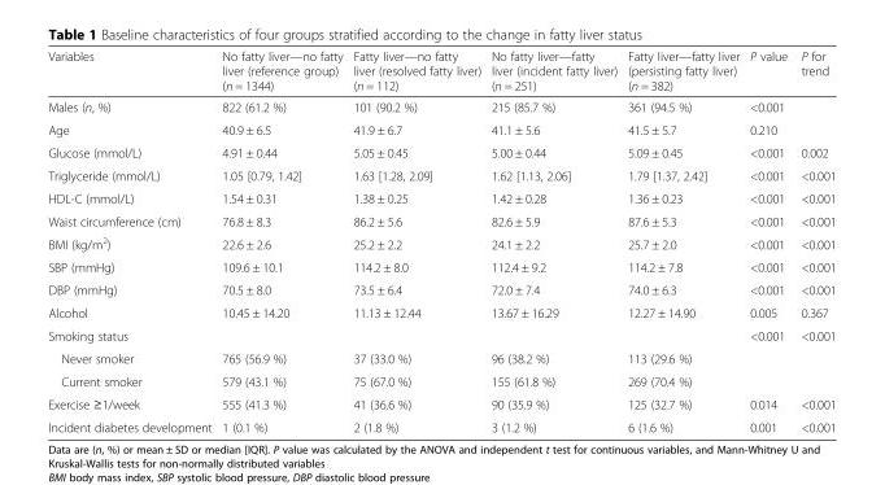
<table><thead><tr><td>Variables</td><td>No fatty liver—no fatty liver (reference group) (n = 1344)</td><td>Fatty liver—no fatty liver (resolved fatty liver) (n = 112)</td><td>No fatty liver—fatty liver (incident fatty liver) (n = 251)</td><td>Fatty liver—fatty liver (persisting fatty liver) (n = 382)</td><td>P value</td><td>P for trend</td></tr></thead><tbody><tr><td>Males (n, %)</td><td>822 (61.2 %)</td><td>101 (90.2 %)</td><td>215 (85.7 %)</td><td>361 (94.5 %)</td><td>&lt;0.001</td><td></td></tr><tr><td>Age</td><td>40.9 ± 6.5</td><td>41.9 ± 6.7</td><td>41.1 ± 5.6</td><td>41.5 ± 5.7</td><td>0.210</td><td></td></tr><tr><td>Glucose (mmol/L)</td><td>4.91 ± 0.44</td><td>5.05 ± 0.45</td><td>5.00 ± 0.44</td><td>5.09 ± 0.45</td><td>&lt;0.001</td><td>0.002</td></tr><tr><td>Triglyceride (mmol/L)</td><td>1.05 [0.79, 1.42]</td><td>1.63 [1.28, 2.09]</td><td>1.62 [1.13, 2.06]</td><td>1.79 [1.37, 2.42]</td><td>&lt;0.001</td><td>&lt;0.001</td></tr><tr><td>HDL-C (mmol/L)</td><td>1.54 ± 0.31</td><td>1.38 ± 0.25</td><td>1.42 ± 0.28</td><td>1.36 ± 0.23</td><td>&lt;0.001</td><td>&lt;0.001</td></tr><tr><td>Waist circumference (cm)</td><td>76.8 ± 8.3</td><td>86.2 ± 5.6</td><td>82.6 ± 5.9</td><td>87.6 ± 5.3</td><td>&lt;0.001</td><td>&lt;0.001</td></tr><tr><td>BMI (kg/m<sup>2</sup>)</td><td>22.6 ± 2.6</td><td>25.2 ± 2.2</td><td>24.1 ± 2.2</td><td>25.7 ± 2.0</td><td>&lt;0.001</td><td>&lt;0.001</td></tr><tr><td>SBP (mmHg)</td><td>109.6 ± 10.1</td><td>114.2 ± 8.0</td><td>112.4 ± 9.2</td><td>114.2 ± 7.8</td><td>&lt;0.001</td><td>&lt;0.001</td></tr><tr><td>DBP (mmHg)</td><td>70.5 ± 8.0</td><td>73.5 ± 6.4</td><td>72.0 ± 7.4</td><td>74.0 ± 6.3</td><td>&lt;0.001</td><td>&lt;0.001</td></tr><tr><td>Alcohol</td><td>10.45 ± 14.20</td><td>11.13 ± 12.44</td><td>13.67 ± 16.29</td><td>12.27 ± 14.90</td><td>0.005</td><td>0.367</td></tr><tr><td>Smoking status</td><td></td><td></td><td></td><td></td><td>&lt;0.001</td><td>&lt;0.001</td></tr><tr><td>Never smoker</td><td>765 (56.9 %)</td><td>37 (33.0 %)</td><td>96 (38.2 %)</td><td>113 (29.6 %)</td><td></td><td></td></tr><tr><td>Current smoker</td><td>579 (43.1 %)</td><td>75 (67.0 %)</td><td>155 (61.8 %)</td><td>269 (70.4 %)</td><td></td><td></td></tr><tr><td>Exercise ≥1/week</td><td>555 (41.3 %)</td><td>41 (36.6 %)</td><td>90 (35.9 %)</td><td>125 (32.7 %)</td><td>0.014</td><td>&lt;0.001</td></tr><tr><td>Incident diabetes development</td><td>1 (0.1 %)</td><td>2 (1.8 %)</td><td>3 (1.2 %)</td><td>6 (1.6 %)</td><td>0.001</td><td>&lt;0.001</td></tr></tbody></table>